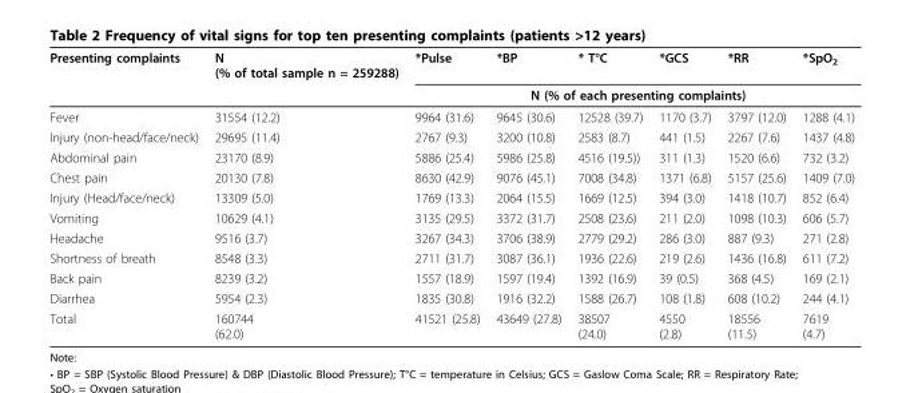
<table><thead><tr><td rowspan="2">Presenting complaints</td><td rowspan="2">N (% of total sample n = 259288)</td><td>*Pulse</td><td>*BP</td><td>* T°C</td><td>*GCS</td><td>*RR</td><td>*SpO<sub>2</sub></td></tr><tr><td colspan="6">N (% of each presenting complaints)</td></tr></thead><tbody><tr><td>Fever</td><td>31554 (12.2)</td><td>9964 (31.6)</td><td>9645 (30.6)</td><td>12528 (39.7)</td><td>1170 (3.7)</td><td>3797 (12.0)</td><td>1288 (4.1)</td></tr><tr><td>Injury (non-head/face/neck)</td><td>29695 (11.4)</td><td>2767 (9.3)</td><td>3200 (10.8)</td><td>2583 (8.7)</td><td>441 (1.5)</td><td>2267 (7.6)</td><td>1437 (4.8)</td></tr><tr><td>Abdominal pain</td><td>23170 (8.9)</td><td>5886 (25.4)</td><td>5986 (25.8)</td><td>4516 (19.5))</td><td>311 (1.3)</td><td>1520 (6.6)</td><td>732 (3.2)</td></tr><tr><td>Chest pain</td><td>20130 (7.8)</td><td>8630 (42.9)</td><td>9076 (45.1)</td><td>7008 (34.8)</td><td>1371 (6.8)</td><td>5157 (25.6)</td><td>1409 (7.0)</td></tr><tr><td>Injury (Head/face/neck)</td><td>13309 (5.0)</td><td>1769 (13.3)</td><td>2064 (15.5)</td><td>1669 (12.5)</td><td>394 (3.0)</td><td>1418 (10.7)</td><td>852 (6.4)</td></tr><tr><td>Vomiting</td><td>10629 (4.1)</td><td>3135 (29.5)</td><td>3372 (31.7)</td><td>2508 (23.6)</td><td>211 (2.0)</td><td>1098 (10.3)</td><td>606 (5.7)</td></tr><tr><td>Headache</td><td>9516 (3.7)</td><td>3267 (34.3)</td><td>3706 (38.9)</td><td>2779 (29.2)</td><td>286 (3.0)</td><td>887 (9.3)</td><td>271 (2.8)</td></tr><tr><td>Shortness of breath</td><td>8548 (3.3)</td><td>2711 (31.7)</td><td>3087 (36.1)</td><td>1936 (22.6)</td><td>219 (2.6)</td><td>1436 (16.8)</td><td>611 (7.2)</td></tr><tr><td>Back pain</td><td>8239 (3.2)</td><td>1557 (18.9)</td><td>1597 (19.4)</td><td>1392 (16.9)</td><td>39 (0.5)</td><td>368 (4.5)</td><td>169 (2.1)</td></tr><tr><td>Diarrhea</td><td>5954 (2.3)</td><td>1835 (30.8)</td><td>1916 (32.2)</td><td>1588 (26.7)</td><td>108 (1.8)</td><td>608 (10.2)</td><td>244 (4.1)</td></tr><tr><td>Total</td><td>160744 (62.0)</td><td>41521 (25.8)</td><td>43649 (27.8)</td><td>38507 (24.0)</td><td>4550 (2.8)</td><td>18556 (11.5)</td><td>7619 (4.7)</td></tr></tbody></table>